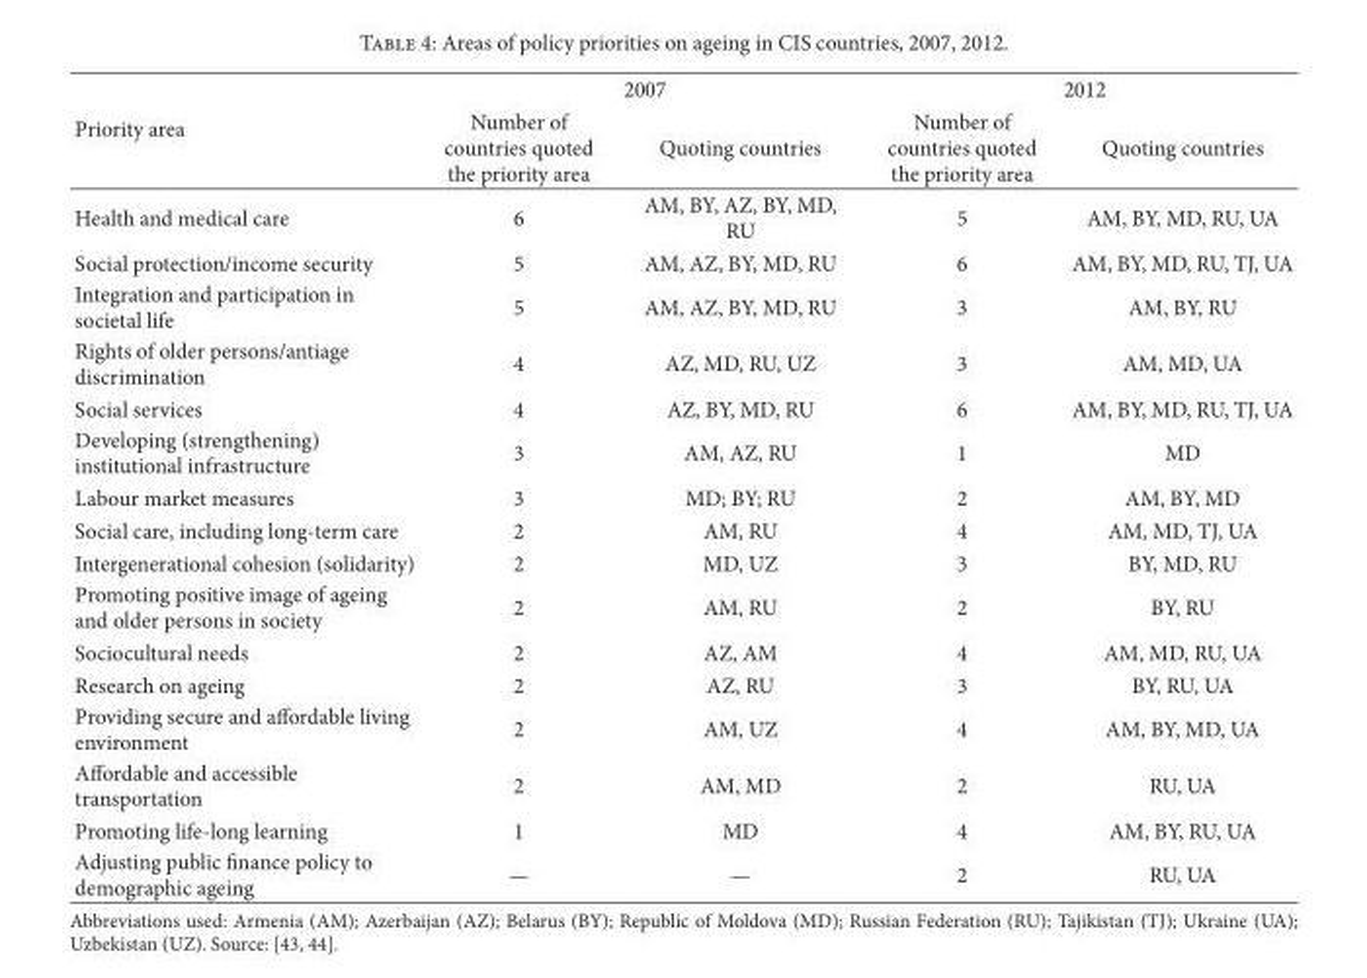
<table><thead><tr><td rowspan="2">Priority area</td><td colspan="2">2007</td><td colspan="2">2012</td></tr><tr><td>Number of countries quoted the priority area</td><td>Quoting countries</td><td>Number of countries quoted the priority area</td><td>Quoting countries</td></tr></thead><tbody><tr><td>Health and medical care</td><td>6</td><td>AM, BY, AZ, BY, MD, RU</td><td>5</td><td>AM, BY, MD, RU, UA</td></tr><tr><td>Social protection/income security</td><td>5</td><td>AM, AZ, BY, MD, RU</td><td>6</td><td>AM, BY, MD, RU, TJ, UA</td></tr><tr><td>Integration and participation in societal life</td><td>5</td><td>AM, AZ, BY, MD, RU</td><td>3</td><td>AM, BY, RU</td></tr><tr><td>Rights of older persons/antiage discrimination</td><td>4</td><td>AZ, MD, RU, UZ</td><td>3</td><td>AM, MD, UA</td></tr><tr><td>Social services</td><td>4</td><td>AZ, BY, MD, RU</td><td>6</td><td>AM, BY, MD, RU, TJ, UA</td></tr><tr><td>Developing (strengthening) institutional infrastructure</td><td>3</td><td>AM, AZ, RU</td><td>1</td><td>MD</td></tr><tr><td>Labour market measures</td><td>3</td><td>MD; BY; RU</td><td>2</td><td>AM, BY, MD</td></tr><tr><td>Social care, including long-term care</td><td>2</td><td>AM, RU</td><td>4</td><td>AM, MD, TJ, UA</td></tr><tr><td>Intergenerational cohesion (solidarity)</td><td>2</td><td>MD, UZ</td><td>3</td><td>BY, MD, RU</td></tr><tr><td>Promoting positive image of ageing and older persons in society</td><td>2</td><td>AM, RU</td><td>2</td><td>BY, RU</td></tr><tr><td>Sociocultural needs</td><td>2</td><td>AZ, AM</td><td>4</td><td>AM, MD, RU, UA</td></tr><tr><td>Research on ageing</td><td>2</td><td>AZ, RU</td><td>3</td><td>BY, RU, UA</td></tr><tr><td>Providing secure and affordable living environment</td><td>2</td><td>AM, UZ</td><td>4</td><td>AM, BY, MD, UA</td></tr><tr><td>Affordable and accessible transportation</td><td>2</td><td>AM, MD</td><td>2</td><td>RU, UA</td></tr><tr><td>Promoting life-long learning</td><td>1</td><td>MD</td><td>4</td><td>AM, BY, RU, UA</td></tr><tr><td>Adjusting public �nance policy to demographic ageing</td><td>—</td><td>—</td><td>2</td><td>RU, UA</td></tr></tbody></table>